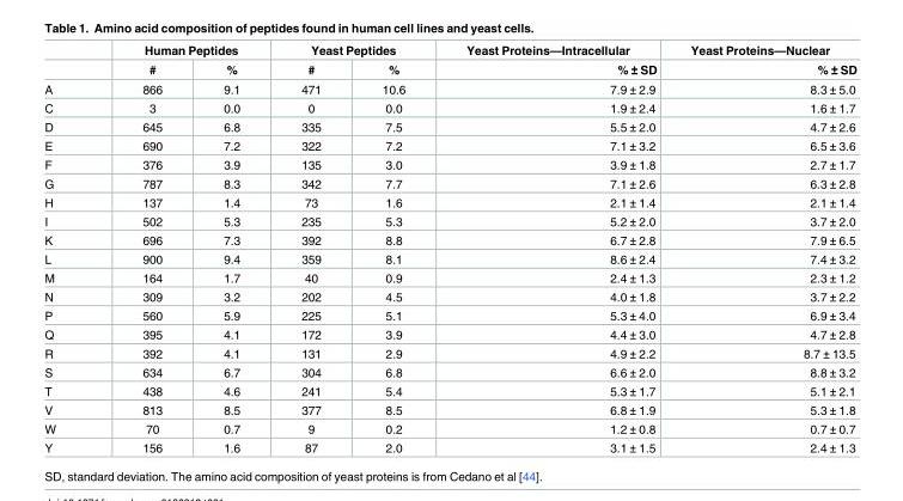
<table><thead><tr><td rowspan="2"></td><td colspan="2">Human Peptides</td><td colspan="2">Yeast Peptides</td><td rowspan="2">Yeast Proteins—Intracellular % ± SD</td><td rowspan="2">Yeast Proteins—Nuclear % ± SD</td></tr><tr><td>#</td><td>%</td><td>#</td><td>%</td></tr></thead><tbody><tr><td>A</td><td>866</td><td>9.1</td><td>471</td><td>10.6</td><td>7.9 ± 2.9</td><td>8.3 ± 5.0</td></tr><tr><td>C</td><td>3</td><td>0.0</td><td>0</td><td>0.0</td><td>1.9 ± 2.4</td><td>1.6 ± 1.7</td></tr><tr><td>D</td><td>645</td><td>6.8</td><td>335</td><td>7.5</td><td>5.5 ± 2.0</td><td>4.7 ± 2.6</td></tr><tr><td>E</td><td>690</td><td>7.2</td><td>322</td><td>7.2</td><td>7.1 ± 3.2</td><td>6.5 ± 3.6</td></tr><tr><td>F</td><td>376</td><td>3.9</td><td>135</td><td>3.0</td><td>3.9 ± 1.8</td><td>2.7 ± 1.7</td></tr><tr><td>G</td><td>787</td><td>8.3</td><td>342</td><td>7.7</td><td>7.1 ± 2.6</td><td>6.3 ± 2.8</td></tr><tr><td>H</td><td>137</td><td>1.4</td><td>73</td><td>1.6</td><td>2.1 ± 1.4</td><td>2.1 ± 1.4</td></tr><tr><td>I</td><td>502</td><td>5.3</td><td>235</td><td>5.3</td><td>5.2 ± 2.0</td><td>3.7 ± 2.0</td></tr><tr><td>K</td><td>696</td><td>7.3</td><td>392</td><td>8.8</td><td>6.7 ± 2.8</td><td>7.9 ± 6.5</td></tr><tr><td>L</td><td>900</td><td>9.4</td><td>359</td><td>8.1</td><td>8.6 ± 2.4</td><td>7.4 ± 3.2</td></tr><tr><td>M</td><td>164</td><td>1.7</td><td>40</td><td>0.9</td><td>2.4 ± 1.3</td><td>2.3 ± 1.2</td></tr><tr><td>N</td><td>309</td><td>3.2</td><td>202</td><td>4.5</td><td>4.0 ± 1.8</td><td>3.7 ± 2.2</td></tr><tr><td>P</td><td>560</td><td>5.9</td><td>225</td><td>5.1</td><td>5.3 ± 4.0</td><td>6.9 ± 3.4</td></tr><tr><td>Q</td><td>395</td><td>4.1</td><td>172</td><td>3.9</td><td>4.4 ± 3.0</td><td>4.7 ± 2.8</td></tr><tr><td>R</td><td>392</td><td>4.1</td><td>131</td><td>2.9</td><td>4.9 ± 2.2</td><td>8.7 ± 13.5</td></tr><tr><td>S</td><td>634</td><td>6.7</td><td>304</td><td>6.8</td><td>6.6 ± 2.0</td><td>8.8 ± 3.2</td></tr><tr><td>T</td><td>438</td><td>4.6</td><td>241</td><td>5.4</td><td>5.3 ± 1.7</td><td>5.1 ± 2.1</td></tr><tr><td>V</td><td>813</td><td>8.5</td><td>377</td><td>8.5</td><td>6.8 ± 1.9</td><td>5.3 ± 1.8</td></tr><tr><td>W</td><td>70</td><td>0.7</td><td>9</td><td>0.2</td><td>1.2 ± 0.8</td><td>0.7 ± 0.7</td></tr><tr><td>Y</td><td>156</td><td>1.6</td><td>87</td><td>2.0</td><td>3.1 ± 1.5</td><td>2.4 ± 1.3</td></tr></tbody></table>